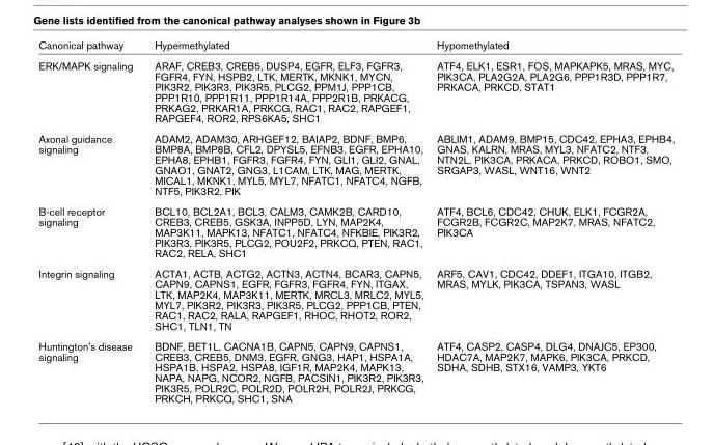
<table><thead><tr><td>Canonical pathway</td><td>Hypermethylated</td><td>Hypomethylated</td></tr></thead><tbody><tr><td>ERK/MAPK signaling</td><td>ARAF, CREB3, CREB5, DUSP4, EGFR, ELF3, FGFR3, FGFR4, FYN, HSPB2, LTK, MERTK, MKNK1, MYCN, PIK3R2, PIK3R3, PIK3R5, PLCG2, PPM1J, PPP1CB, PPP1R10, PPP1R11, PPP1R14A, PPP2R1B, PRKACG, PRKAG2, PRKAR1A, PRKCG, RAC1, RAC2, RAPGEF1, RAPGEF4, ROR2, RPS6KA5, SHC1</td><td>ATF4, ELK1, ESR1, FOS, MAPKAPK5, MRAS, MYC, PIK3CA, PLA2G2A, PLA2G6, PPP1R3D, PPP1R7, PRKACA, PRKCD, STAT1</td></tr><tr><td>Axonal guidance signaling</td><td>ADAM2, ADAM30, ARHGEF12, BAIAP2, BDNF, BMP6, BMP8A, BMP8B, CFL2, DPYSL5, EFNB3, EGFR, EPHA10, EPHA8, EPHB1, FGFR3, FGFR4, FYN, GLI1, GLI2, GNAL, GNAO1, GNAT2, GNG3, L1CAM, LTK, MAG, MERTK, MICAL1, MKNK1, MYL5, MYL7, NFATC1, NFATC4, NGFB, NTF5, PIK3R2, PIK</td><td>ABLIM1, ADAM9, BMP15, CDC42, EPHA3, EPHB4, GNAS, KALRN, MRAS, MYL3, NFATC2, NTF3, NTN2L, PIK3CA, PRKACA, PRKCD, ROBO1, SMO, SRGAP3, WASL, WNT16, WNT2</td></tr><tr><td>B-cell receptor signaling</td><td>BCL10, BCL2A1, BCL3, CALM3, CAMK2B, CARD10, CREB3, CREB5, GSK3A, INPP5D, LYN, MAP2K4, MAP3K11, MAPK13, NFATC1, NFATC4, NFKBIE, PIK3R2, PIK3R3, PIK3R5, PLCG2, POU2F2, PRKCQ, PTEN, RAC1, RAC2, RELA, SHC1</td><td>ATF4, BCL6, CDC42, CHUK, ELK1, FCGR2A, FCGR2B, FCGR2C, MAP2K7, MRAS, NFATC2, PIK3CA</td></tr><tr><td>Integrin signaling</td><td>ACTA1, ACTB, ACTG2, ACTN3, ACTN4, BCAR3, CAPN5, CAPN9, CAPNS1, EGFR, FGFR3, FGFR4, FYN, ITGAX, LTK, MAP2K4, MAP3K11, MERTK, MRCL3, MRLC2, MYL5, MYL7, PIK3R2, PIK3R3, PIK3R5, PLCG2, PPP1CB, PTEN, RAC1, RAC2, RALA, RAPGEF1, RHOC, RHOT2, ROR2, SHC1, TLN1, TN</td><td>ARF5, CAV1, CDC42, DDEF1, ITGA10, ITGB2, MRAS, MYLK, PIK3CA, TSPAN3, WASL</td></tr><tr><td>Huntington&#x27;s disease signaling</td><td>BDNF, BET1L, CACNA1B, CAPN5, CAPN9, CAPNS1, CREB3, CREB5, DNM3, EGFR, GNG3, HAP1, HSPA1A, HSPA1B, HSPA2, HSPA8, IGF1R, MAP2K4, MAPK13, NAPA, NAPG, NCOR2, NGFB, PACSIN1, PIK3R2, PIK3R3, PIK3R5, POLR2C, POLR2D, POLR2H, POLR2J, PRKCG, PRKCH, PRKCQ, SHC1, SNA</td><td>ATF4, CASP2, CASP4, DLG4, DNAJC5, EP300, HDAC7A, MAP2K7, MAPK6, PIK3CA, PRKCD, SDHA, SDHB, STX16, VAMP3, YKT6</td></tr></tbody></table>